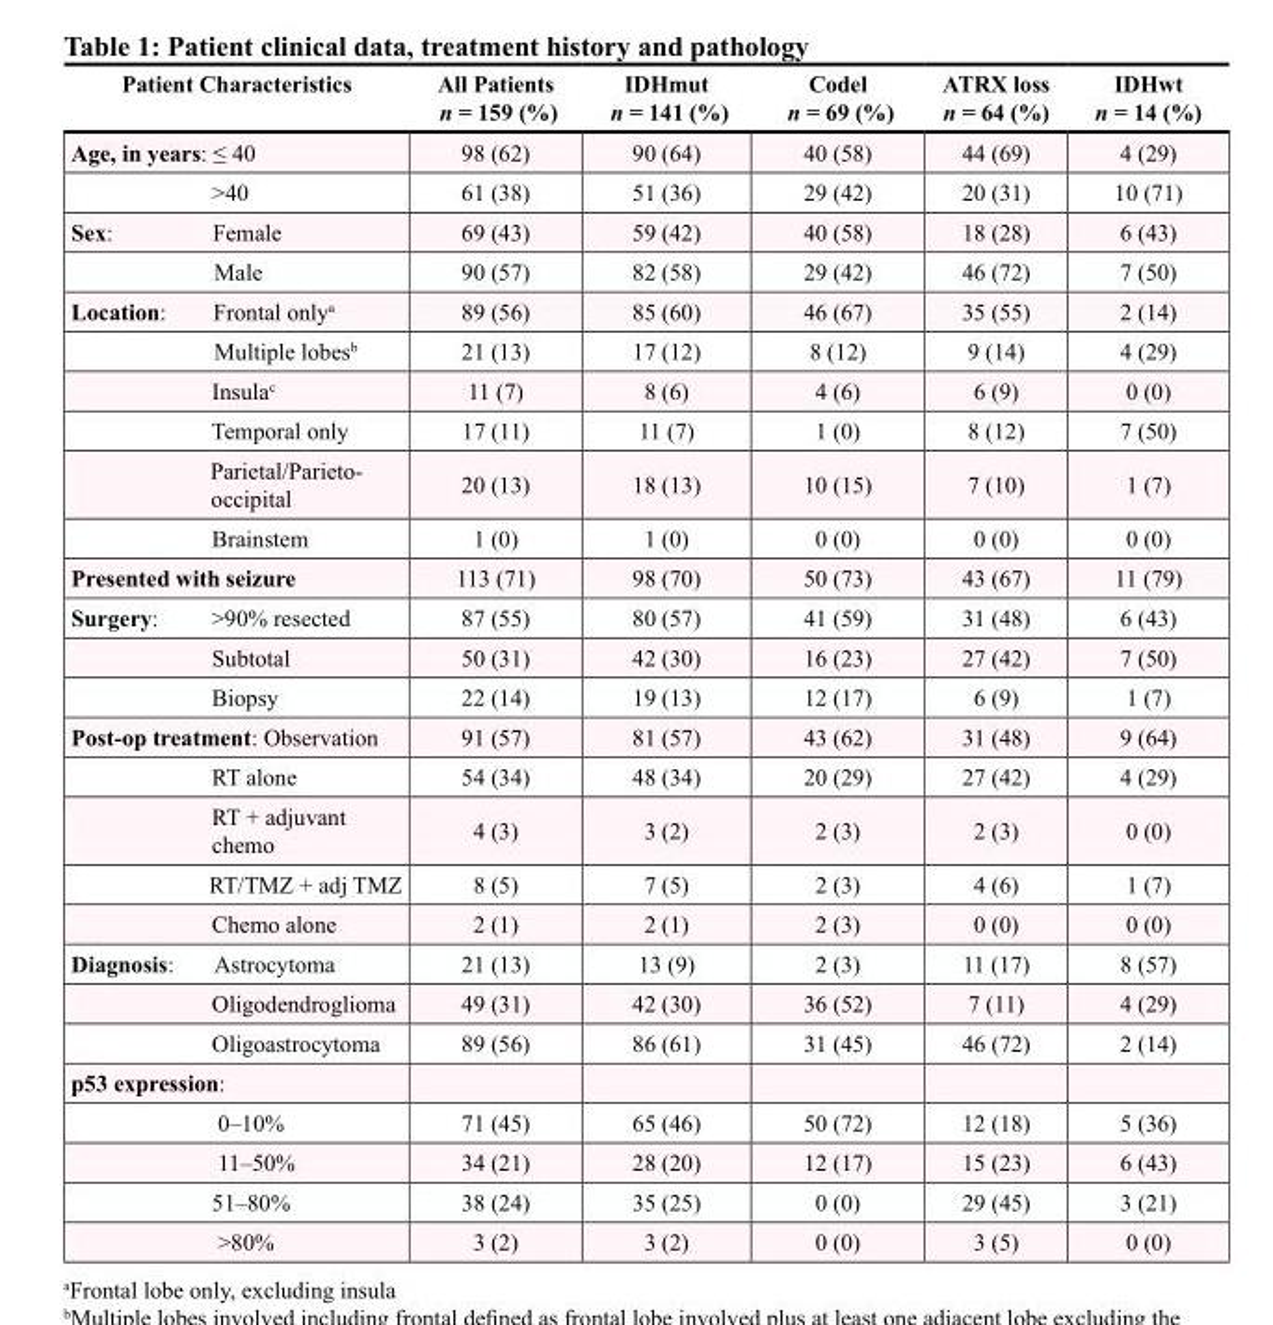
<table><thead><tr><td>Patient Characteristics</td><td>All Patients n = 159 (%)</td><td>IDHmut n = 141 (%)</td><td>Codel n = 69 (%)</td><td>ATRX loss n = 64 (%)</td><td>IDHwt n = 14 (%)</td></tr></thead><tbody><tr><td>Age, in years: ≤ 40</td><td>98 (62)</td><td>90 (64)</td><td>40 (58)</td><td>44 (69)</td><td>4 (29)</td></tr><tr><td>&gt;40</td><td>61 (38)</td><td>51 (36)</td><td>29 (42)</td><td>20 (31)</td><td>10 (71)</td></tr><tr><td>Sex: Female</td><td>69 (43)</td><td>59 (42)</td><td>40 (58)</td><td>18 (28)</td><td>6 (43)</td></tr><tr><td>Male</td><td>90 (57)</td><td>82 (58)</td><td>29 (42)</td><td>46 (72)</td><td>7 (50)</td></tr><tr><td>Location: Frontal only<sup>a</sup></td><td>89 (56)</td><td>85 (60)</td><td>46 (67)</td><td>35 (55)</td><td>2 (14)</td></tr><tr><td>Multiple lobes<sup>b</sup></td><td>21 (13)</td><td>17 (12)</td><td>8 (12)</td><td>9 (14)</td><td>4 (29)</td></tr><tr><td>Insula<sup>c</sup></td><td>11 (7)</td><td>8 (6)</td><td>4 (6)</td><td>6 (9)</td><td>0 (0)</td></tr><tr><td>Temporal only</td><td>17 (11)</td><td>11 (7)</td><td>1 (0)</td><td>8 (12)</td><td>7 (50)</td></tr><tr><td>Parietal/Parieto- occipital</td><td>20 (13)</td><td>18 (13)</td><td>10 (15)</td><td>7 (10)</td><td>1 (7)</td></tr><tr><td>Brainstem</td><td>1 (0)</td><td>1 (0)</td><td>0 (0)</td><td>0 (0)</td><td>0 (0)</td></tr><tr><td>Presented with seizure</td><td>113 (71)</td><td>98 (70)</td><td>50 (73)</td><td>43 (67)</td><td>11 (79)</td></tr><tr><td>Surgery: &gt;90% resected</td><td>87 (55)</td><td>80 (57)</td><td>41 (59)</td><td>31 (48)</td><td>6 (43)</td></tr><tr><td>Subtotal</td><td>50 (31)</td><td>42 (30)</td><td>16 (23)</td><td>27 (42)</td><td>7 (50)</td></tr><tr><td>Biopsy</td><td>22 (14)</td><td>19 (13)</td><td>12 (17)</td><td>6 (9)</td><td>1 (7)</td></tr><tr><td>Post-op treatment: Observation</td><td>91 (57)</td><td>81 (57)</td><td>43 (62)</td><td>31 (48)</td><td>9 (64)</td></tr><tr><td>RT alone</td><td>54 (34)</td><td>48 (34)</td><td>20 (29)</td><td>27 (42)</td><td>4 (29)</td></tr><tr><td>RT + adjuvant chemo</td><td>4 (3)</td><td>3 (2)</td><td>2 (3)</td><td>2 (3)</td><td>0 (0)</td></tr><tr><td>RT/TMZ + adj TMZ</td><td>8 (5)</td><td>7 (5)</td><td>2 (3)</td><td>4 (6)</td><td>1 (7)</td></tr><tr><td>Chemo alone</td><td>2 (1)</td><td>2 (1)</td><td>2 (3)</td><td>0 (0)</td><td>0 (0)</td></tr><tr><td>Diagnosis: Astrocytoma</td><td>21 (13)</td><td>13 (9)</td><td>2 (3)</td><td>11 (17)</td><td>8 (57)</td></tr><tr><td>Oligodendroglioma</td><td>49 (31)</td><td>42 (30)</td><td>36 (52)</td><td>7 (11)</td><td>4 (29)</td></tr><tr><td>Oligoastrocytoma</td><td>89 (56)</td><td>86 (61)</td><td>31 (45)</td><td>46 (72)</td><td>2 (14)</td></tr><tr><td colspan="6">p53 expression:</td></tr><tr><td>0–10%</td><td>71 (45)</td><td>65 (46)</td><td>50 (72)</td><td>12 (18)</td><td>5 (36)</td></tr><tr><td>11–50%</td><td>34 (21)</td><td>28 (20)</td><td>12 (17)</td><td>15 (23)</td><td>6 (43)</td></tr><tr><td>51–80%</td><td>38 (24)</td><td>35 (25)</td><td>0 (0)</td><td>29 (45)</td><td>3 (21)</td></tr><tr><td>&gt;80%</td><td>3 (2)</td><td>3 (2)</td><td>0 (0)</td><td>3 (5)</td><td>0 (0)</td></tr></tbody></table>